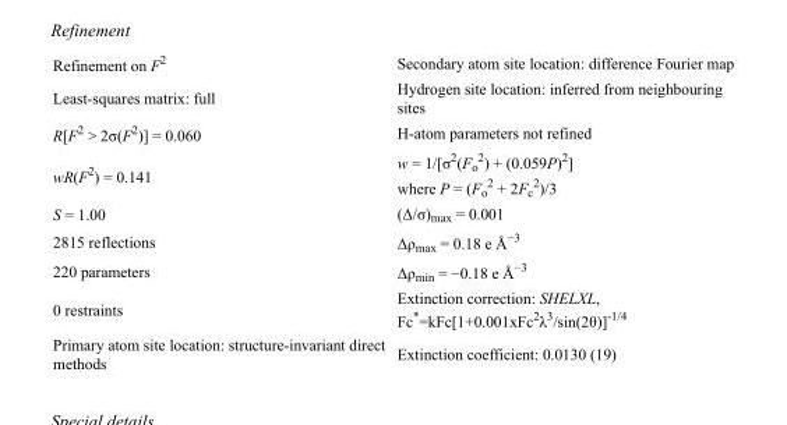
<table><tbody><tr><td>Refinement on F<sup>2</sup></td><td>Secondary atom site location: difference Fourier map</td></tr><tr><td>Least-squares matrix: full</td><td>Hydrogen site location: inferred from neighbouring sites</td></tr><tr><td>R[F<sup>2</sup> &gt; 2σ(F<sup>2</sup>)] = 0.060</td><td>H-atom parameters not refined</td></tr><tr><td>wR(F<sup>2</sup>) = 0.141</td><td>w = 1/[σ<sup>2</sup>(F<sub>o</sub> <sup>2</sup>) + (0.059P)<sup>2</sup>] where P = (F<sub>o</sub> <sup>2</sup> + 2F<sub>c</sub> <sup>2</sup>)/3</td></tr><tr><td>S = 1.00</td><td>(Δ/σ)<sub>max</sub> = 0.001</td></tr><tr><td>2815 reflections</td><td>Δρ<sub>max</sub> = 0.18 e Å<sup>−3</sup></td></tr><tr><td>220 parameters</td><td>Δρ<sub>min</sub> = −0.18 e Å<sup>−3</sup></td></tr><tr><td>0 restraints</td><td>Extinction correction: SHELXL, Fc*=kFc[1+0.001xFc<sup>2</sup>λ<sup>3</sup>/sin(2θ)]<sup>-1/4</sup></td></tr><tr><td>Primary atom site location: structure-invariant direct methods</td><td>Extinction coefficient: 0.0130 (19)</td></tr></tbody></table>